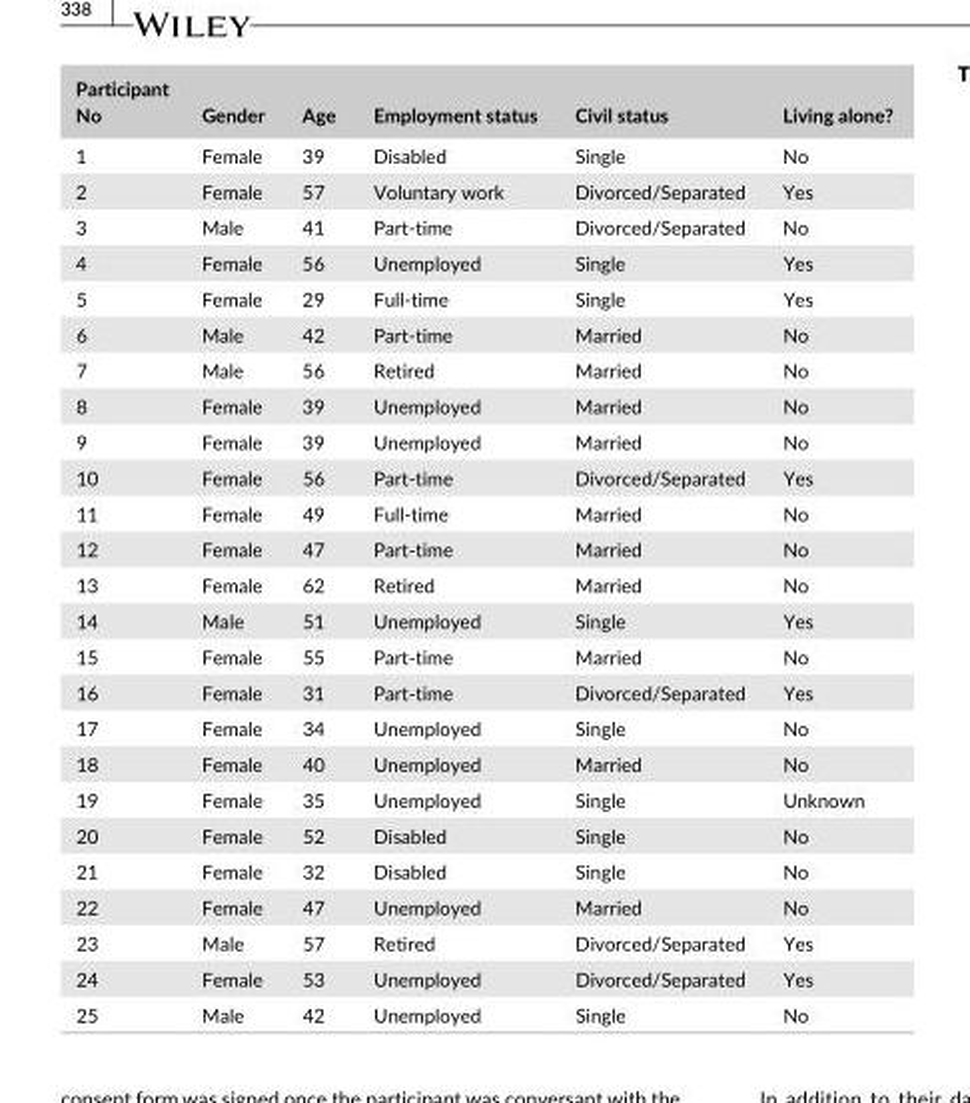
<table><thead><tr><td>Participant No</td><td>Gender</td><td>Age</td><td>Employment status</td><td>Civil status</td><td>Living alone?</td></tr></thead><tbody><tr><td>1</td><td>Female</td><td>39</td><td>Disabled</td><td>Single</td><td>No</td></tr><tr><td>2</td><td>Female</td><td>57</td><td>Voluntary work</td><td>Divorced/Separated</td><td>Yes</td></tr><tr><td>3</td><td>Male</td><td>41</td><td>Part- time</td><td>Divorced/Separated</td><td>No</td></tr><tr><td>4</td><td>Female</td><td>56</td><td>Unemployed</td><td>Single</td><td>Yes</td></tr><tr><td>5</td><td>Female</td><td>29</td><td>Full- time</td><td>Single</td><td>Yes</td></tr><tr><td>6</td><td>Male</td><td>42</td><td>Part- time</td><td>Married</td><td>No</td></tr><tr><td>7</td><td>Male</td><td>56</td><td>Retired</td><td>Married</td><td>No</td></tr><tr><td>8</td><td>Female</td><td>39</td><td>Unemployed</td><td>Married</td><td>No</td></tr><tr><td>9</td><td>Female</td><td>39</td><td>Unemployed</td><td>Married</td><td>No</td></tr><tr><td>10</td><td>Female</td><td>56</td><td>Part- time</td><td>Divorced/Separated</td><td>Yes</td></tr><tr><td>11</td><td>Female</td><td>49</td><td>Full- time</td><td>Married</td><td>No</td></tr><tr><td>12</td><td>Female</td><td>47</td><td>Part- time</td><td>Married</td><td>No</td></tr><tr><td>13</td><td>Female</td><td>62</td><td>Retired</td><td>Married</td><td>No</td></tr><tr><td>14</td><td>Male</td><td>51</td><td>Unemployed</td><td>Single</td><td>Yes</td></tr><tr><td>15</td><td>Female</td><td>55</td><td>Part- time</td><td>Married</td><td>No</td></tr><tr><td>16</td><td>Female</td><td>31</td><td>Part- time</td><td>Divorced/Separated</td><td>Yes</td></tr><tr><td>17</td><td>Female</td><td>34</td><td>Unemployed</td><td>Single</td><td>No</td></tr><tr><td>18</td><td>Female</td><td>40</td><td>Unemployed</td><td>Married</td><td>No</td></tr><tr><td>19</td><td>Female</td><td>35</td><td>Unemployed</td><td>Single</td><td>Unknown</td></tr><tr><td>20</td><td>Female</td><td>52</td><td>Disabled</td><td>Single</td><td>No</td></tr><tr><td>21</td><td>Female</td><td>32</td><td>Disabled</td><td>Single</td><td>No</td></tr><tr><td>22</td><td>Female</td><td>47</td><td>Unemployed</td><td>Married</td><td>No</td></tr><tr><td>23</td><td>Male</td><td>57</td><td>Retired</td><td>Divorced/Separated</td><td>Yes</td></tr><tr><td>24</td><td>Female</td><td>53</td><td>Unemployed</td><td>Divorced/Separated</td><td>Yes</td></tr><tr><td>25</td><td>Male</td><td>42</td><td>Unemployed</td><td>Single</td><td>No</td></tr></tbody></table>